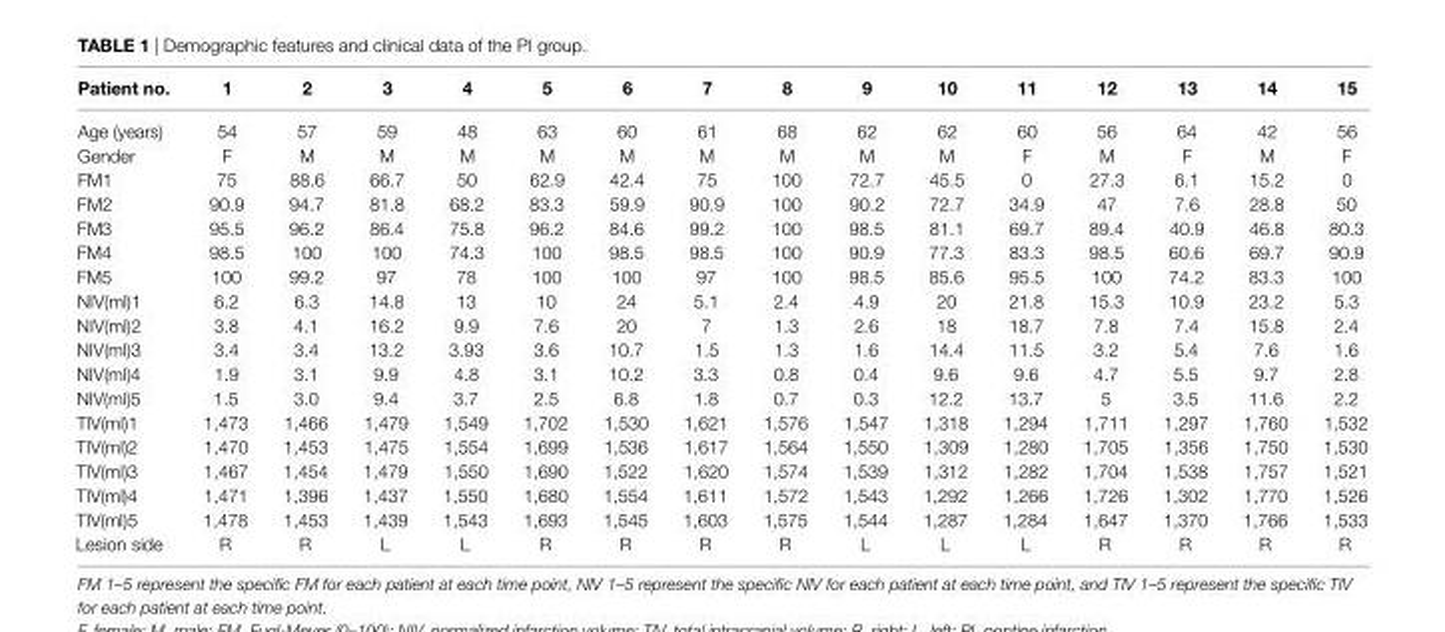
<table><thead><tr><td>Patient no.</td><td>1</td><td>2</td><td>3</td><td>4</td><td>5</td><td>6</td><td>7</td><td>8</td><td>9</td><td>10</td><td>11</td><td>12</td><td>13</td><td>14</td><td>15</td></tr></thead><tbody><tr><td>Age (years)</td><td>54</td><td>57</td><td>59</td><td>48</td><td>63</td><td>60</td><td>61</td><td>68</td><td>62</td><td>62</td><td>60</td><td>56</td><td>64</td><td>42</td><td>56</td></tr><tr><td>Gender</td><td>F</td><td>M</td><td>M</td><td>M</td><td>M</td><td>M</td><td>M</td><td>M</td><td>M</td><td>M</td><td>F</td><td>M</td><td>F</td><td>M</td><td>F</td></tr><tr><td>FM1</td><td>75</td><td>88.6</td><td>66.7</td><td>50</td><td>62.9</td><td>42.4</td><td>75</td><td>100</td><td>72.7</td><td>45.5</td><td>0</td><td>27.3</td><td>6.1</td><td>15.2</td><td>0</td></tr><tr><td>FM2</td><td>90.9</td><td>94.7</td><td>81.8</td><td>68.2</td><td>83.3</td><td>59.9</td><td>90.9</td><td>100</td><td>90.2</td><td>72.7</td><td>34.9</td><td>47</td><td>7.6</td><td>28.8</td><td>50</td></tr><tr><td>FM3</td><td>95.5</td><td>96.2</td><td>86.4</td><td>75.8</td><td>96.2</td><td>84.6</td><td>99.2</td><td>100</td><td>98.5</td><td>81.1</td><td>69.7</td><td>89.4</td><td>40.9</td><td>46.8</td><td>80.3</td></tr><tr><td>FM4</td><td>98.5</td><td>100</td><td>100</td><td>74.3</td><td>100</td><td>98.5</td><td>98.5</td><td>100</td><td>90.9</td><td>77.3</td><td>83.3</td><td>98.5</td><td>60.6</td><td>69.7</td><td>90.9</td></tr><tr><td>FM5</td><td>100</td><td>99.2</td><td>97</td><td>78</td><td>100</td><td>100</td><td>97</td><td>100</td><td>98.5</td><td>85.6</td><td>95.5</td><td>100</td><td>74.2</td><td>83.3</td><td>100</td></tr><tr><td>NIV(ml)1</td><td>6.2</td><td>6.3</td><td>14.8</td><td>13</td><td>10</td><td>24</td><td>5.1</td><td>2.4</td><td>4.9</td><td>20</td><td>21.8</td><td>15.3</td><td>10.9</td><td>23.2</td><td>5.3</td></tr><tr><td>NIV(ml)2</td><td>3.8</td><td>4.1</td><td>16.2</td><td>9.9</td><td>7.6</td><td>20</td><td>7</td><td>1.3</td><td>2.6</td><td>18</td><td>18.7</td><td>7.8</td><td>7.4</td><td>15.8</td><td>2.4</td></tr><tr><td>NIV(ml)3</td><td>3.4</td><td>3.4</td><td>13.2</td><td>3.93</td><td>3.6</td><td>10.7</td><td>1.5</td><td>1.3</td><td>1.6</td><td>14.4</td><td>11.5</td><td>3.2</td><td>5.4</td><td>7.6</td><td>1.6</td></tr><tr><td>NIV(ml)4</td><td>1.9</td><td>3.1</td><td>9.9</td><td>4.8</td><td>3.1</td><td>10.2</td><td>3.3</td><td>0.8</td><td>0.4</td><td>9.6</td><td>9.6</td><td>4.7</td><td>5.5</td><td>9.7</td><td>2.8</td></tr><tr><td>NIV(ml)5</td><td>1.5</td><td>3.0</td><td>9.4</td><td>3.7</td><td>2.5</td><td>6.8</td><td>1.8</td><td>0.7</td><td>0.3</td><td>12.2</td><td>13.7</td><td>5</td><td>3.5</td><td>11.6</td><td>2.2</td></tr><tr><td>TIV(ml)1</td><td>1,473</td><td>1,466</td><td>1,479</td><td>1,549</td><td>1,702</td><td>1,530</td><td>1,621</td><td>1,576</td><td>1,547</td><td>1,318</td><td>1,294</td><td>1,711</td><td>1,297</td><td>1,760</td><td>1,532</td></tr><tr><td>TIV(ml)2</td><td>1,470</td><td>1,453</td><td>1,475</td><td>1,554</td><td>1,699</td><td>1,536</td><td>1,617</td><td>1,564</td><td>1,550</td><td>1,309</td><td>1,280</td><td>1,705</td><td>1,356</td><td>1,750</td><td>1,530</td></tr><tr><td>TIV(ml)3</td><td>1,467</td><td>1,454</td><td>1,479</td><td>1,550</td><td>1,690</td><td>1,522</td><td>1,620</td><td>1,574</td><td>1,539</td><td>1,312</td><td>1,282</td><td>1,704</td><td>1,538</td><td>1,757</td><td>1,521</td></tr><tr><td>TIV(ml)4</td><td>1,471</td><td>1,396</td><td>1,437</td><td>1,550</td><td>1,680</td><td>1,554</td><td>1,611</td><td>1,572</td><td>1,543</td><td>1,292</td><td>1,266</td><td>1,726</td><td>1,302</td><td>1,770</td><td>1,526</td></tr><tr><td>TIV(ml)5</td><td>1,478</td><td>1,453</td><td>1,439</td><td>1,543</td><td>1,693</td><td>1,545</td><td>1,603</td><td>1,575</td><td>1,544</td><td>1,287</td><td>1,284</td><td>1,647</td><td>1,370</td><td>1,766</td><td>1,533</td></tr><tr><td>Lesion side</td><td>R</td><td>R</td><td>L</td><td>L</td><td>R</td><td>R</td><td>R</td><td>R</td><td>L</td><td>L</td><td>L</td><td>R</td><td>R</td><td>R</td><td>R</td></tr></tbody></table>